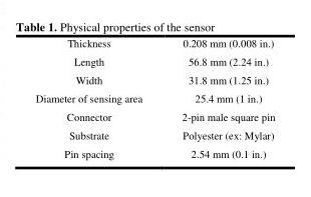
<table><tbody><tr><td>Thickness</td><td>0.208 mm (0.008 in.)</td></tr><tr><td>Length</td><td>56.8 mm (2.24 in.)</td></tr><tr><td>Width</td><td>31.8 mm (1.25 in.)</td></tr><tr><td>Diameter of sensing area</td><td>25.4 mm (1 in.)</td></tr><tr><td>Connector</td><td>2-pin male square pin</td></tr><tr><td>Substrate</td><td>Polyester (ex: Mylar)</td></tr><tr><td>Pin spacing</td><td>2.54 mm (0.1 in.)</td></tr></tbody></table>